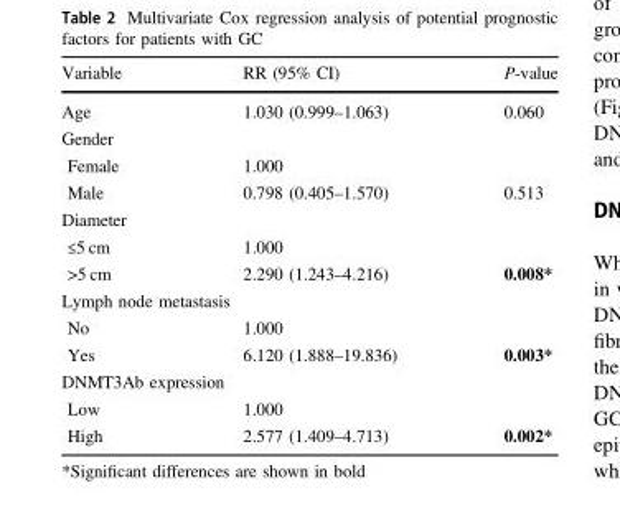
<table><thead><tr><td>Variable</td><td>RR (95% CI)</td><td>P-value</td></tr></thead><tbody><tr><td>Age</td><td>1.030 (0.999–1.063)</td><td>0.060</td></tr><tr><td colspan="3">Gender</td></tr><tr><td>Female</td><td>1.000</td><td></td></tr><tr><td>Male</td><td>0.798 (0.405–1.570)</td><td>0.513</td></tr><tr><td colspan="3">Diameter</td></tr><tr><td>≤5 cm</td><td>1.000</td><td></td></tr><tr><td>&gt;5 cm</td><td>2.290 (1.243–4.216)</td><td>0.008*</td></tr><tr><td colspan="3">Lymph node metastasis</td></tr><tr><td>No</td><td>1.000</td><td></td></tr><tr><td>Yes</td><td>6.120 (1.888–19.836)</td><td>0.003*</td></tr><tr><td colspan="3">DNMT3Ab expression</td></tr><tr><td>Low</td><td>1.000</td><td></td></tr><tr><td>High</td><td>2.577 (1.409–4.713)</td><td>0.002*</td></tr></tbody></table>